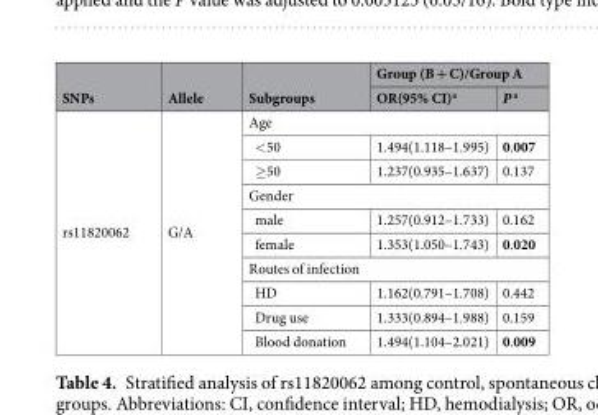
<table><thead><tr><td rowspan="2">SNPs</td><td rowspan="2">Allele</td><td rowspan="2">Subgroups</td><td colspan="2">Group (B + C)/Group A</td></tr><tr><td>OR(95% CI)<sup>a</sup></td><td>P <sup>a</sup></td></tr></thead><tbody><tr><td rowspan="10">rs11820062</td><td rowspan="10">G/A</td><td colspan="3">Age</td></tr><tr><td>&lt;50</td><td>1.494(1.118–1.995)</td><td>0.007</td></tr><tr><td>≥50</td><td>1.237(0.935–1.637)</td><td>0.137</td></tr><tr><td colspan="3">Gender</td></tr><tr><td>male</td><td>1.257(0.912–1.733)</td><td>0.162</td></tr><tr><td>female</td><td>1.353(1.050–1.743)</td><td>0.020</td></tr><tr><td colspan="3">Routes of infection</td></tr><tr><td>HD</td><td>1.162(0.791–1.708)</td><td>0.442</td></tr><tr><td>Drug use</td><td>1.333(0.894–1.988)</td><td>0.159</td></tr><tr><td>Blood donation</td><td>1.494(1.104–2.021)</td><td>0.009</td></tr></tbody></table>